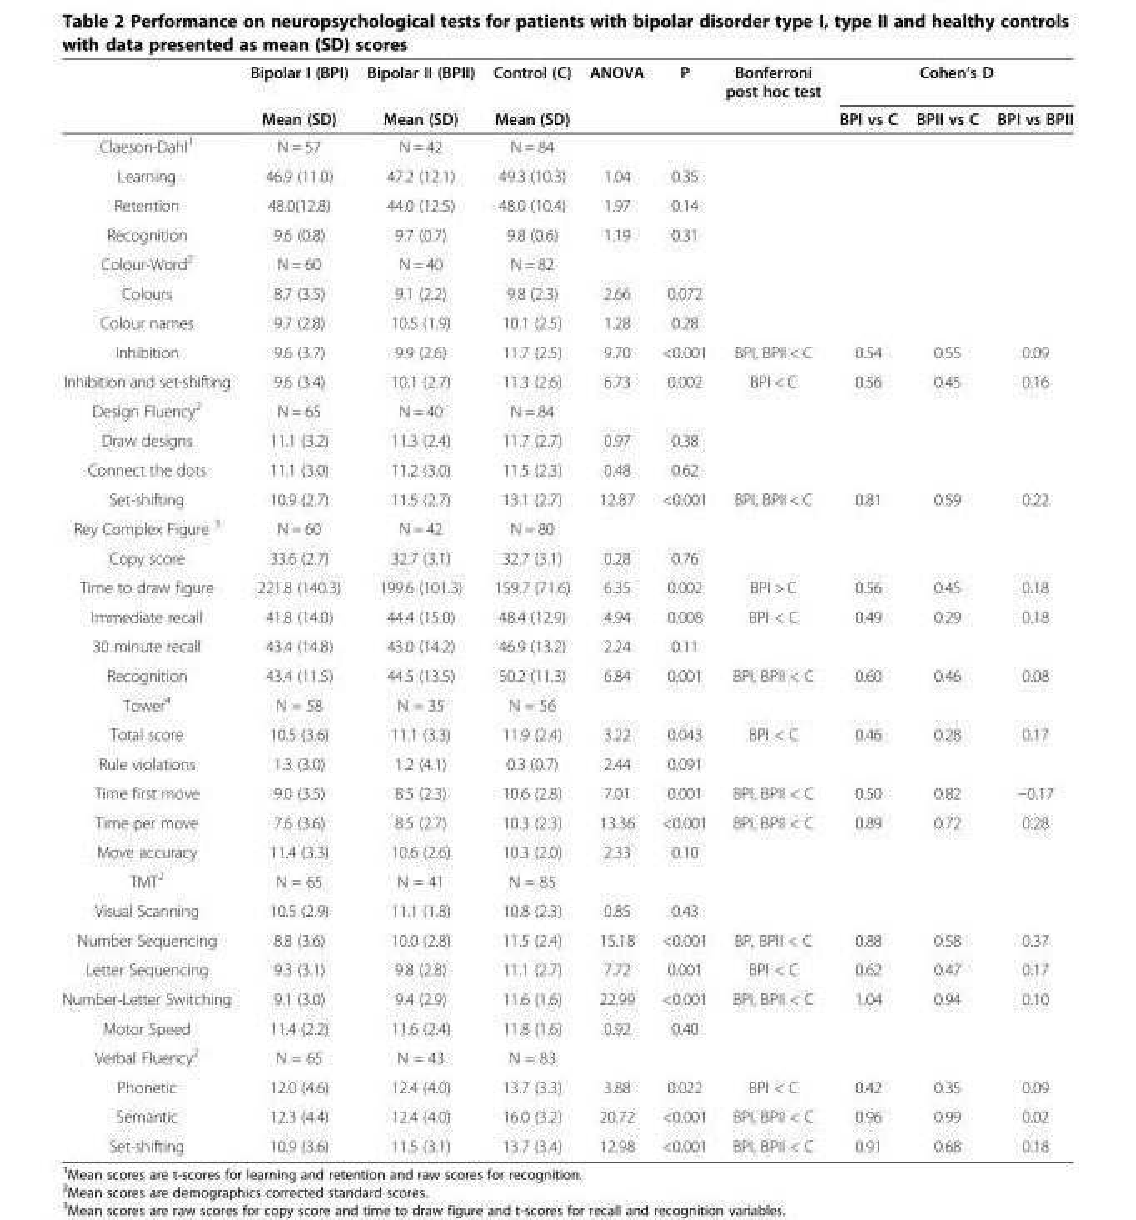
<table><thead><tr><td rowspan="2"></td><td rowspan="2">Bipolar I (BPI) Mean (SD)</td><td rowspan="2">Bipolar II (BPII) Mean (SD)</td><td rowspan="2">Control (C) Mean (SD)</td><td rowspan="2">ANOVA</td><td rowspan="2">P</td><td rowspan="2">Bonferroni post hoc test</td><td colspan="3">Cohen’s D</td></tr><tr><td>BPI vs C</td><td>BPII vs C</td><td>BPI vs BPII</td></tr></thead><tbody><tr><td>Claeson-Dahl<sup>1</sup></td><td>N = 57</td><td>N = 42</td><td>N = 84</td><td></td><td></td><td></td><td></td><td></td><td></td></tr><tr><td>Learning</td><td>46.9 (11.0)</td><td>47.2 (12.1)</td><td>49.3 (10.3)</td><td>1.04</td><td>0.35</td><td></td><td></td><td></td><td></td></tr><tr><td>Retention</td><td>48.0(12.8)</td><td>44.0 (12.5)</td><td>48.0 (10.4)</td><td>1.97</td><td>0.14</td><td></td><td></td><td></td><td></td></tr><tr><td>Recognition</td><td>9.6 (0.8)</td><td>9.7 (0.7)</td><td>9.8 (0.6)</td><td>1.19</td><td>0.31</td><td></td><td></td><td></td><td></td></tr><tr><td>Colour-Word<sup>2</sup></td><td>N = 60</td><td>N = 40</td><td>N = 82</td><td></td><td></td><td></td><td></td><td></td><td></td></tr><tr><td>Colours</td><td>8.7 (3.5)</td><td>9.1 (2.2)</td><td>9.8 (2.3)</td><td>2.66</td><td>0.072</td><td></td><td></td><td></td><td></td></tr><tr><td>Colour names</td><td>9.7 (2.8)</td><td>10.5 (1.9)</td><td>10.1 (2.5)</td><td>1.28</td><td>0.28</td><td></td><td></td><td></td><td></td></tr><tr><td>Inhibition</td><td>9.6 (3.7)</td><td>9.9 (2.6)</td><td>11.7 (2.5)</td><td>9.70</td><td>&lt;0.001</td><td>BPI, BPII &lt; C</td><td>0.54</td><td>0.55</td><td>0.09</td></tr><tr><td>Inhibition and set-shifting</td><td>9.6 (3.4)</td><td>10.1 (2.7)</td><td>11.3 (2.6)</td><td>6.73</td><td>0.002</td><td>BPI &lt; C</td><td>0.56</td><td>0.45</td><td>0.16</td></tr><tr><td>Design Fluency<sup>2</sup></td><td>N = 65</td><td>N = 40</td><td>N = 84</td><td></td><td></td><td></td><td></td><td></td><td></td></tr><tr><td>Draw designs</td><td>11.1 (3.2)</td><td>11.3 (2.4)</td><td>11.7 (2.7)</td><td>0.97</td><td>0.38</td><td></td><td></td><td></td><td></td></tr><tr><td>Connect the dots</td><td>11.1 (3.0)</td><td>11.2 (3.0)</td><td>11.5 (2.3)</td><td>0.48</td><td>0.62</td><td></td><td></td><td></td><td></td></tr><tr><td>Set-shifting</td><td>10.9 (2.7)</td><td>11.5 (2.7)</td><td>13.1 (2.7)</td><td>12.87</td><td>&lt;0.001</td><td>BPI, BPII &lt; C</td><td>0.81</td><td>0.59</td><td>0.22</td></tr><tr><td>Rey Complex Figure <sup>3</sup></td><td>N = 60</td><td>N = 42</td><td>N = 80</td><td></td><td></td><td></td><td></td><td></td><td></td></tr><tr><td>Copy score</td><td>33.6 (2.7)</td><td>32.7 (3.1)</td><td>32.7 (3.1)</td><td>0.28</td><td>0.76</td><td></td><td></td><td></td><td></td></tr><tr><td>Time to draw figure</td><td>221.8 (140.3)</td><td>199.6 (101.3)</td><td>159.7 (71.6)</td><td>6.35</td><td>0.002</td><td>BPI &gt; C</td><td>0.56</td><td>0.45</td><td>0.18</td></tr><tr><td>Immediate recall</td><td>41.8 (14.0)</td><td>44.4 (15.0)</td><td>48.4 (12.9)</td><td>4.94</td><td>0.008</td><td>BPI &lt; C</td><td>0.49</td><td>0.29</td><td>0.18</td></tr><tr><td>30 minute recall</td><td>43.4 (14.8)</td><td>43.0 (14.2)</td><td>46.9 (13.2)</td><td>2.24</td><td>0.11</td><td></td><td></td><td></td><td></td></tr><tr><td>Recognition</td><td>43.4 (11.5)</td><td>44.5 (13.5)</td><td>50.2 (11.3)</td><td>6.84</td><td>0.001</td><td>BPI, BPII &lt; C</td><td>0.60</td><td>0.46</td><td>0.08</td></tr><tr><td>Tower<sup>4</sup></td><td>N = 58</td><td>N = 35</td><td>N = 56</td><td></td><td></td><td></td><td></td><td></td><td></td></tr><tr><td>Total score</td><td>10.5 (3.6)</td><td>11.1 (3.3)</td><td>11.9 (2.4)</td><td>3.22</td><td>0.043</td><td>BPI &lt; C</td><td>0.46</td><td>0.28</td><td>0.17</td></tr><tr><td>Rule violations</td><td>1.3 (3.0)</td><td>1.2 (4.1)</td><td>0.3 (0.7)</td><td>2.44</td><td>0.091</td><td></td><td></td><td></td><td></td></tr><tr><td>Time first move</td><td>9.0 (3.5)</td><td>8.5 (2.3)</td><td>10.6 (2.8)</td><td>7.01</td><td>0.001</td><td>BPI, BPII &lt; C</td><td>0.50</td><td>0.82</td><td>−0.17</td></tr><tr><td>Time per move</td><td>7.6 (3.6)</td><td>8.5 (2.7)</td><td>10.3 (2.3)</td><td>13.36</td><td>&lt;0.001</td><td>BPI, BPII &lt; C</td><td>0.89</td><td>0.72</td><td>0.28</td></tr><tr><td>Move accuracy</td><td>11.4 (3.3)</td><td>10.6 (2.6)</td><td>10.3 (2.0)</td><td>2.33</td><td>0.10</td><td></td><td></td><td></td><td></td></tr><tr><td>TMT<sup>2</sup></td><td>N = 65</td><td>N = 41</td><td>N = 85</td><td></td><td></td><td></td><td></td><td></td><td></td></tr><tr><td>Visual Scanning</td><td>10.5 (2.9)</td><td>11.1 (1.8)</td><td>10.8 (2.3)</td><td>0.85</td><td>0.43</td><td></td><td></td><td></td><td></td></tr><tr><td>Number Sequencing</td><td>8.8 (3.6)</td><td>10.0 (2.8)</td><td>11.5 (2.4)</td><td>15.18</td><td>&lt;0.001</td><td>BP, BPII &lt; C</td><td>0.88</td><td>0.58</td><td>0.37</td></tr><tr><td>Letter Sequencing</td><td>9.3 (3.1)</td><td>9.8 (2.8)</td><td>11.1 (2.7)</td><td>7.72</td><td>0.001</td><td>BPI &lt; C</td><td>0.62</td><td>0.47</td><td>0.17</td></tr><tr><td>Number-Letter Switching</td><td>9.1 (3.0)</td><td>9.4 (2.9)</td><td>11.6 (1.6)</td><td>22.99</td><td>&lt;0.001</td><td>BPI, BPII &lt; C</td><td>1.04</td><td>0.94</td><td>0.10</td></tr><tr><td>Motor Speed</td><td>11.4 (2.2)</td><td>11.6 (2.4)</td><td>11.8 (1.6)</td><td>0.92</td><td>0.40</td><td></td><td></td><td></td><td></td></tr><tr><td>Verbal Fluency<sup>2</sup></td><td>N = 65</td><td>N = 43</td><td>N = 83</td><td></td><td></td><td></td><td></td><td></td><td></td></tr><tr><td>Phonetic</td><td>12.0 (4.6)</td><td>12.4 (4.0)</td><td>13.7 (3.3)</td><td>3.88</td><td>0.022</td><td>BPI &lt; C</td><td>0.42</td><td>0.35</td><td>0.09</td></tr><tr><td>Semantic</td><td>12.3 (4.4)</td><td>12.4 (4.0)</td><td>16.0 (3.2)</td><td>20.72</td><td>&lt;0.001</td><td>BPI, BPII &lt; C</td><td>0.96</td><td>0.99</td><td>0.02</td></tr><tr><td>Set-shifting</td><td>10.9 (3.6)</td><td>11.5 (3.1)</td><td>13.7 (3.4)</td><td>12.98</td><td>&lt;0.001</td><td>BPI, BPII &lt; C</td><td>0.91</td><td>0.68</td><td>0.18</td></tr></tbody></table>